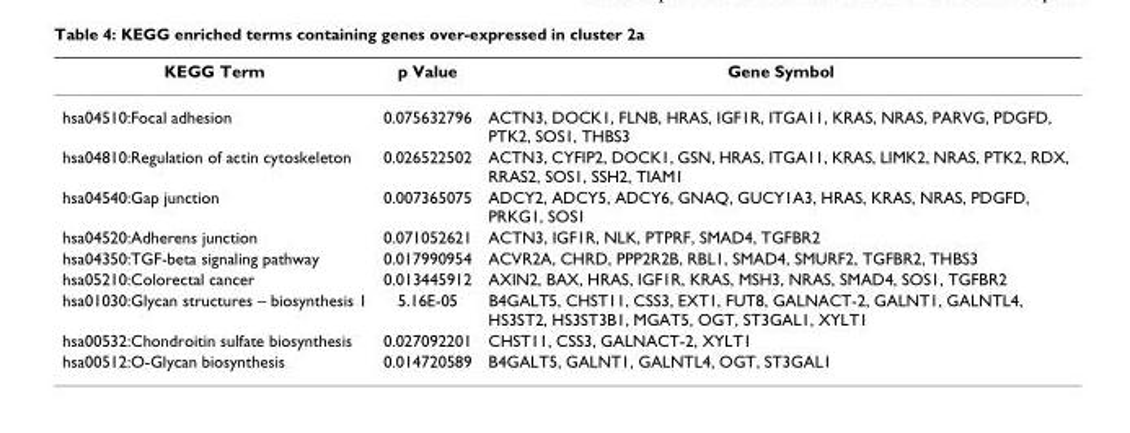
<table><thead><tr><td>KEGG Term</td><td>p Value</td><td>Gene Symbol</td></tr></thead><tbody><tr><td>hsa04510:Focal adhesion</td><td>0.075632796</td><td>ACTN3, DOCK1, FLNB, HRAS, IGF1R, ITGA11, KRAS, NRAS, PARVG, PDGFD, PTK2, SOS1, THBS3</td></tr><tr><td>hsa04810:Regulation of actin cytoskeleton</td><td>0.026522502</td><td>ACTN3, CYFIP2, DOCK1, GSN, HRAS, ITGA11, KRAS, LIMK2, NRAS, PTK2, RDX, RRAS2, SOS1, SSH2, TIAM1</td></tr><tr><td>hsa04540:Gap junction</td><td>0.007365075</td><td>ADCY2, ADCY5, ADCY6, GNAQ, GUCY1A3, HRAS, KRAS, NRAS, PDGFD, PRKG1, SOS1</td></tr><tr><td>hsa04520:Adherens junction</td><td>0.071052621</td><td>ACTN3, IGF1R, NLK, PTPRF, SMAD4, TGFBR2</td></tr><tr><td>hsa04350:TGF-beta signaling pathway</td><td>0.017990954</td><td>ACVR2A, CHRD, PPP2R2B, RBL1, SMAD4, SMURF2, TGFBR2, THBS3</td></tr><tr><td>hsa05210:Colorectal cancer</td><td>0.013445912</td><td>AXIN2, BAX, HRAS, IGF1R, KRAS, MSH3, NRAS, SMAD4, SOS1, TGFBR2</td></tr><tr><td>hsa01030:Glycan structures – biosynthesis 1</td><td>5.16E-05</td><td>B4GALT5, CHST11, CSS3, EXT1, FUT8, GALNACT-2, GALNT1, GALNTL4, HS3ST2, HS3ST3B1, MGAT5, OGT, ST3GAL1, XYLT1</td></tr><tr><td>hsa00532:Chondroitin sulfate biosynthesis</td><td>0.027092201</td><td>CHST11, CSS3, GALNACT-2, XYLT1</td></tr><tr><td>hsa00512:O-Glycan biosynthesis</td><td>0.014720589</td><td>B4GALT5, GALNT1, GALNTL4, OGT, ST3GAL1</td></tr></tbody></table>